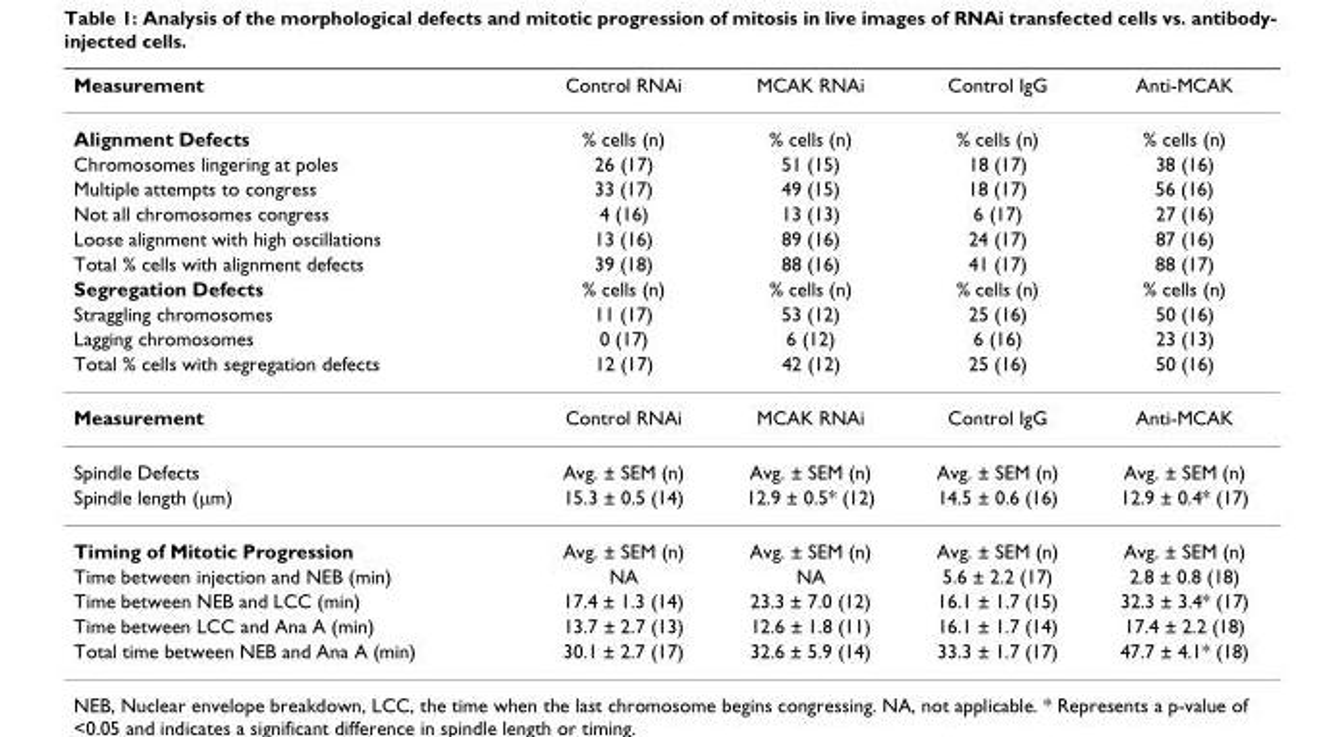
<table><thead><tr><td>Measurement</td><td>Control RNAi</td><td>MCAK RNAi</td><td>Control IgG</td><td>Anti-MCAK</td></tr></thead><tbody><tr><td>Alignment Defects</td><td>% cells (n)</td><td>% cells (n)</td><td>% cells (n)</td><td>% cells (n)</td></tr><tr><td>Chromosomes lingering at poles</td><td>26 (17)</td><td>51 (15)</td><td>18 (17)</td><td>38 (16)</td></tr><tr><td>Multiple attempts to congress</td><td>33 (17)</td><td>49 (15)</td><td>18 (17)</td><td>56 (16)</td></tr><tr><td>Not all chromosomes congress</td><td>4 (16)</td><td>13 (13)</td><td>6 (17)</td><td>27 (16)</td></tr><tr><td>Loose alignment with high oscillations</td><td>13 (16)</td><td>89 (16)</td><td>24 (17)</td><td>87 (16)</td></tr><tr><td>Total % cells with alignment defects</td><td>39 (18)</td><td>88 (16)</td><td>41 (17)</td><td>88 (17)</td></tr><tr><td>Segregation Defects</td><td>% cells (n)</td><td>% cells (n)</td><td>% cells (n)</td><td>% cells (n)</td></tr><tr><td>Straggling chromosomes</td><td>11 (17)</td><td>53 (12)</td><td>25 (16)</td><td>50 (16)</td></tr><tr><td>Lagging chromosomes</td><td>0 (17)</td><td>6 (12)</td><td>6 (16)</td><td>23 (13)</td></tr><tr><td>Total % cells with segregation defects</td><td>12 (17)</td><td>42 (12)</td><td>25 (16)</td><td>50 (16)</td></tr><tr><td>Measurement</td><td>Control RNAi</td><td>MCAK RNAi</td><td>Control IgG</td><td>Anti-MCAK</td></tr><tr><td>Spindle Defects</td><td>Avg. ± SEM (n)</td><td>Avg. ± SEM (n)</td><td>Avg. ± SEM (n)</td><td>Avg. ± SEM (n)</td></tr><tr><td>Spindle length (μm)</td><td>15.3 ± 0.5 (14)</td><td>12.9 ± 0.5* (12)</td><td>14.5 ± 0.6 (16)</td><td>12.9 ± 0.4* (17)</td></tr><tr><td>Timing of Mitotic Progression</td><td>Avg. ± SEM (n)</td><td>Avg. ± SEM (n)</td><td>Avg. ± SEM (n)</td><td>Avg. ± SEM (n)</td></tr><tr><td>Time between injection and NEB (min)</td><td>NA</td><td>NA</td><td>5.6 ± 2.2 (17)</td><td>2.8 ± 0.8 (18)</td></tr><tr><td>Time between NEB and LCC (min)</td><td>17.4 ± 1.3 (14)</td><td>23.3 ± 7.0 (12)</td><td>16.1 ± 1.7 (15)</td><td>32.3 ± 3.4* (17)</td></tr><tr><td>Time between LCC and Ana A (min)</td><td>13.7 ± 2.7 (13)</td><td>12.6 ± 1.8 (11)</td><td>16.1 ± 1.7 (14)</td><td>17.4 ± 2.2 (18)</td></tr><tr><td>Total time between NEB and Ana A (min)</td><td>30.1 ± 2.7 (17)</td><td>32.6 ± 5.9 (14)</td><td>33.3 ± 1.7 (17)</td><td>47.7 ± 4.1* (18)</td></tr></tbody></table>